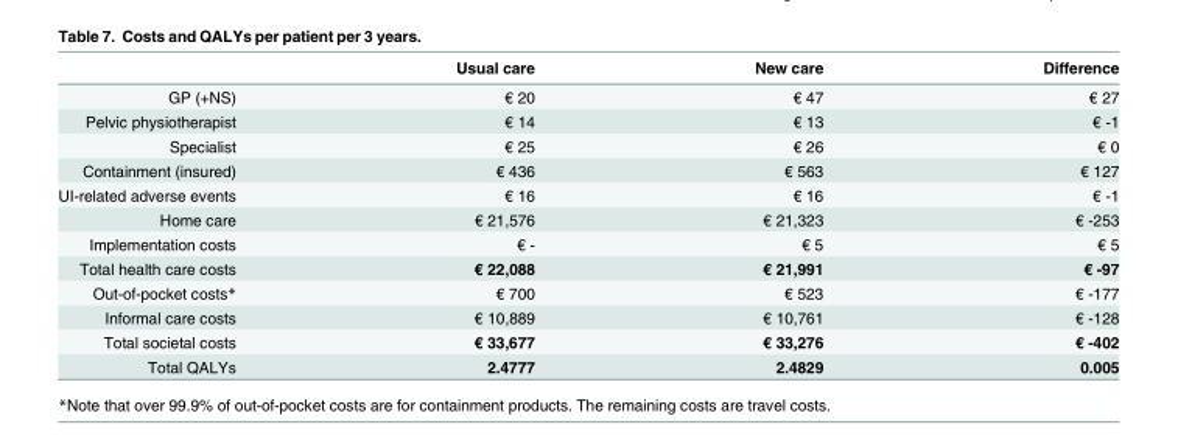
<table><thead><tr><td></td><td>Usual care</td><td>New care</td><td>Difference</td></tr></thead><tbody><tr><td>GP (+NS)</td><td>€ 20</td><td>€ 47</td><td>€ 27</td></tr><tr><td>Pelvic physiotherapist</td><td>€ 14</td><td>€ 13</td><td>€ -1</td></tr><tr><td>Specialist</td><td>€ 25</td><td>€ 26</td><td>€ 0</td></tr><tr><td>Containment (insured)</td><td>€ 436</td><td>€ 563</td><td>€ 127</td></tr><tr><td>UI-related adverse events</td><td>€ 16</td><td>€ 16</td><td>€ -1</td></tr><tr><td>Home care</td><td>€ 21,576</td><td>€ 21,323</td><td>€ -253</td></tr><tr><td>Implementation costs</td><td>€ -</td><td>€ 5</td><td>€ 5</td></tr><tr><td>Total health care costs</td><td>€ 22,088</td><td>€ 21,991</td><td>€ -97</td></tr><tr><td>Out-of-pocket costs*</td><td>€ 700</td><td>€ 523</td><td>€ -177</td></tr><tr><td>Informal care costs</td><td>€ 10,889</td><td>€ 10,761</td><td>€ -128</td></tr><tr><td>Total societal costs</td><td>€ 33,677</td><td>€ 33,276</td><td>€ -402</td></tr><tr><td>Total QALYs</td><td>2.4777</td><td>2.4829</td><td>0.005</td></tr></tbody></table>